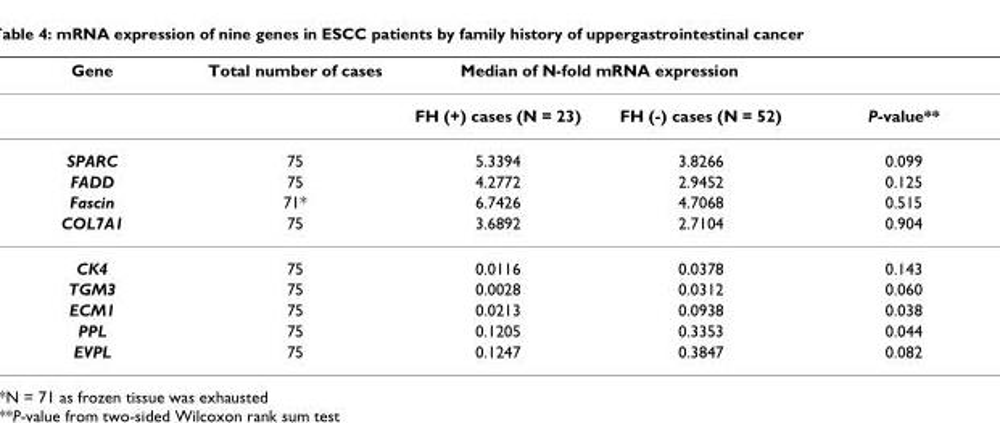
<table><thead><tr><td rowspan="2">Gene</td><td rowspan="2">Total number of cases</td><td colspan="2">Median of N-fold mRNA expression</td><td rowspan="2">P-value**</td></tr><tr><td>FH (+) cases (N = 23)</td><td>FH (-) cases (N = 52)</td></tr></thead><tbody><tr><td>SPARC</td><td>75</td><td>5.3394</td><td>3.8266</td><td>0.099</td></tr><tr><td>FADD</td><td>75</td><td>4.2772</td><td>2.9452</td><td>0.125</td></tr><tr><td>Fascin</td><td>71*</td><td>6.7426</td><td>4.7068</td><td>0.515</td></tr><tr><td>COL7A1</td><td>75</td><td>3.6892</td><td>2.7104</td><td>0.904</td></tr><tr><td>CK4</td><td>75</td><td>0.0116</td><td>0.0378</td><td>0.143</td></tr><tr><td>TGM3</td><td>75</td><td>0.0028</td><td>0.0312</td><td>0.060</td></tr><tr><td>ECM1</td><td>75</td><td>0.0213</td><td>0.0938</td><td>0.038</td></tr><tr><td>PPL</td><td>75</td><td>0.1205</td><td>0.3353</td><td>0.044</td></tr><tr><td>EVPL</td><td>75</td><td>0.1247</td><td>0.3847</td><td>0.082</td></tr></tbody></table>